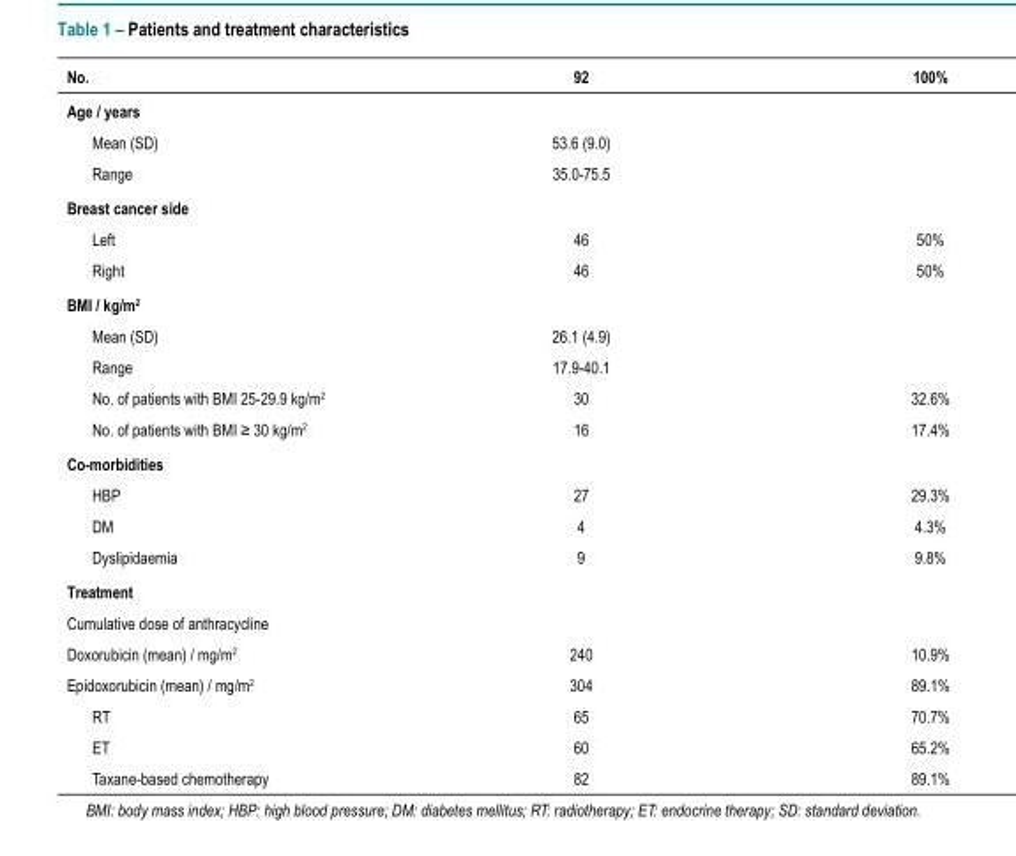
<table><thead><tr><td>No.</td><td>92</td><td>100%</td></tr></thead><tbody><tr><td colspan="3">Age / years</td></tr><tr><td>Mean (SD)</td><td>53.6 (9.0)</td><td></td></tr><tr><td>Range</td><td>35.0-75.5</td><td></td></tr><tr><td colspan="3">Breast cancer side</td></tr><tr><td>Left</td><td>46</td><td>50%</td></tr><tr><td>Right</td><td>46</td><td>50%</td></tr><tr><td colspan="3">BMI / kg/m<sup>2</sup></td></tr><tr><td>Mean (SD)</td><td>26.1 (4.9)</td><td></td></tr><tr><td>Range</td><td>17.9-40.1</td><td></td></tr><tr><td>No. of patients with BMI 25-29.9 kg/m<sup>2</sup></td><td>30</td><td>32.6%</td></tr><tr><td>No. of patients with BMI ≥ 30 kg/m<sup>2</sup></td><td>16</td><td>17.4%</td></tr><tr><td colspan="3">Co-morbidities</td></tr><tr><td>HBP</td><td>27</td><td>29.3%</td></tr><tr><td>DM</td><td>4</td><td>4.3%</td></tr><tr><td>Dyslipidaemia</td><td>9</td><td>9.8%</td></tr><tr><td colspan="3">Treatment</td></tr><tr><td colspan="3">Cumulative dose of anthracycline</td></tr><tr><td>Doxorubicin (mean) / mg/m<sup>2</sup></td><td>240</td><td>10.9%</td></tr><tr><td>Epidoxorubicin (mean) / mg/m<sup>2</sup></td><td>304</td><td>89.1%</td></tr><tr><td>RT</td><td>65</td><td>70.7%</td></tr><tr><td>ET</td><td>60</td><td>65.2%</td></tr><tr><td>Taxane-based chemotherapy</td><td>82</td><td>89.1%</td></tr></tbody></table>